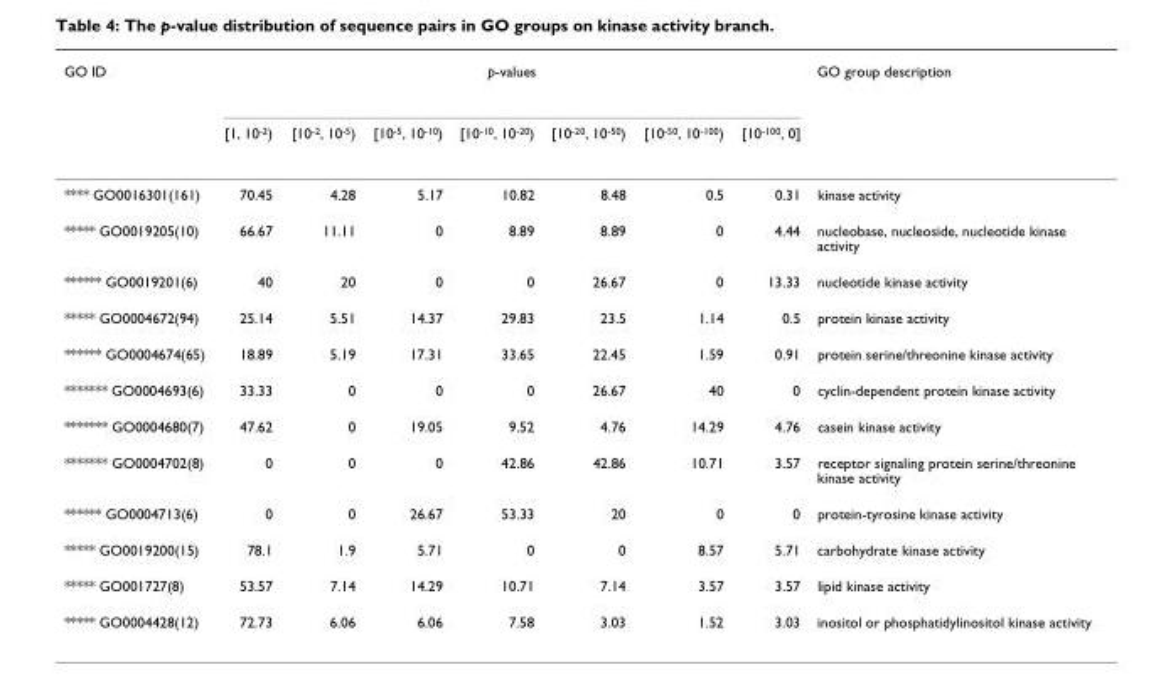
<table><thead><tr><td rowspan="2">GO ID</td><td colspan="7">p-values</td><td rowspan="2">GO group description</td></tr><tr><td>[1, 10-2)</td><td>[10-2, 10-5)</td><td>[10-5, 10-10)</td><td>[10-10, 10-20)</td><td>[10-20, 10-50)</td><td>[10-50, 10-100)</td><td>[10-100, 0]</td></tr></thead><tbody><tr><td>**** GO0016301(161)</td><td>70.45</td><td>4.28</td><td>5.17</td><td>10.82</td><td>8.48</td><td>0.5</td><td>0.31</td><td>kinase activity</td></tr><tr><td>***** GO0019205(10)</td><td>66.67</td><td>11.11</td><td>0</td><td>8.89</td><td>8.89</td><td>0</td><td>4.44</td><td>nucleobase, nucleoside, nucleotide kinase activity</td></tr><tr><td>****** GO0019201(6)</td><td>40</td><td>20</td><td>0</td><td>0</td><td>26.67</td><td>0</td><td>13.33</td><td>nucleotide kinase activity</td></tr><tr><td>***** GO0004672(94)</td><td>25.14</td><td>5.51</td><td>14.37</td><td>29.83</td><td>23.5</td><td>1.14</td><td>0.5</td><td>protein kinase activity</td></tr><tr><td>****** GO0004674(65)</td><td>18.89</td><td>5.19</td><td>17.31</td><td>33.65</td><td>22.45</td><td>1.59</td><td>0.91</td><td>protein serine/threonine kinase activity</td></tr><tr><td>******* GO0004693(6)</td><td>33.33</td><td>0</td><td>0</td><td>0</td><td>26.67</td><td>40</td><td>0</td><td>cyclin-dependent protein kinase activity</td></tr><tr><td>******* GO0004680(7)</td><td>47.62</td><td>0</td><td>19.05</td><td>9.52</td><td>4.76</td><td>14.29</td><td>4.76</td><td>casein kinase activity</td></tr><tr><td>******* GO0004702(8)</td><td>0</td><td>0</td><td>0</td><td>42.86</td><td>42.86</td><td>10.71</td><td>3.57</td><td>receptor signaling protein serine/threonine kinase activity</td></tr><tr><td>****** GO0004713(6)</td><td>0</td><td>0</td><td>26.67</td><td>53.33</td><td>20</td><td>0</td><td>0</td><td>protein-tyrosine kinase activity</td></tr><tr><td>***** GO0019200(15)</td><td>78.1</td><td>1.9</td><td>5.71</td><td>0</td><td>0</td><td>8.57</td><td>5.71</td><td>carbohydrate kinase activity</td></tr><tr><td>***** GO001727(8)</td><td>53.57</td><td>7.14</td><td>14.29</td><td>10.71</td><td>7.14</td><td>3.57</td><td>3.57</td><td>lipid kinase activity</td></tr><tr><td>***** GO0004428(12)</td><td>72.73</td><td>6.06</td><td>6.06</td><td>7.58</td><td>3.03</td><td>1.52</td><td>3.03</td><td>inositol or phosphatidylinositol kinase activity</td></tr></tbody></table>